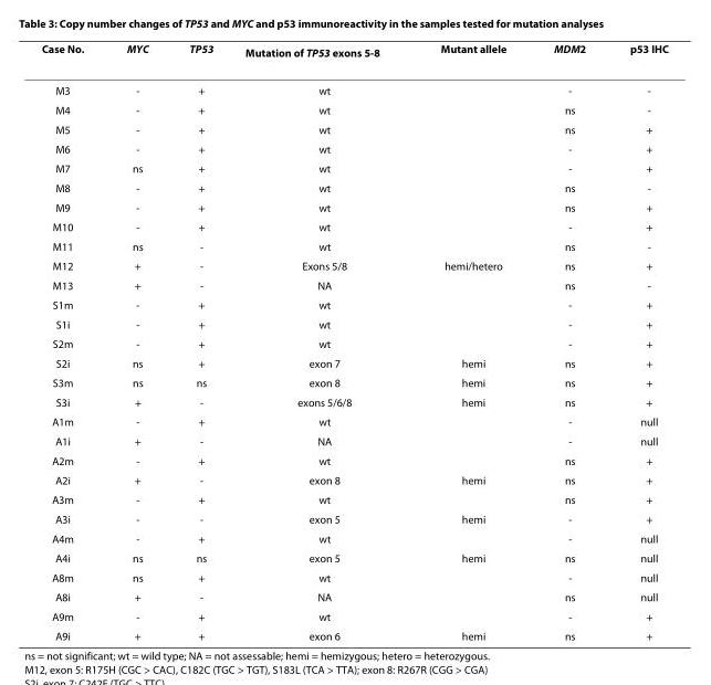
<table><thead><tr><td>Case No.</td><td>MYC</td><td>TP53</td><td>Mutation of TP53 exons 5-8</td><td>Mutant allele</td><td>MDM2</td><td>p53 IHC</td></tr></thead><tbody><tr><td>M3</td><td>-</td><td>+</td><td>wt</td><td></td><td>-</td><td>-</td></tr><tr><td>M4</td><td>-</td><td>+</td><td>wt</td><td></td><td>ns</td><td>-</td></tr><tr><td>M5</td><td>-</td><td>+</td><td>wt</td><td></td><td>ns</td><td>+</td></tr><tr><td>M6</td><td>-</td><td>+</td><td>wt</td><td></td><td>-</td><td>+</td></tr><tr><td>M7</td><td>ns</td><td>+</td><td>wt</td><td></td><td>-</td><td>+</td></tr><tr><td>M8</td><td>-</td><td>+</td><td>wt</td><td></td><td>ns</td><td>-</td></tr><tr><td>M9</td><td>-</td><td>+</td><td>wt</td><td></td><td>ns</td><td>+</td></tr><tr><td>M10</td><td>-</td><td>+</td><td>wt</td><td></td><td>-</td><td>+</td></tr><tr><td>M11</td><td>ns</td><td>-</td><td>wt</td><td></td><td>ns</td><td>-</td></tr><tr><td>M12</td><td>+</td><td>-</td><td>Exons 5/8</td><td>hemi/hetero</td><td>ns</td><td>+</td></tr><tr><td>M13</td><td>+</td><td>-</td><td>NA</td><td></td><td>ns</td><td>-</td></tr><tr><td>S1m</td><td>-</td><td>+</td><td>wt</td><td></td><td>-</td><td>+</td></tr><tr><td>S1i</td><td>-</td><td>+</td><td>wt</td><td></td><td>-</td><td>+</td></tr><tr><td>S2m</td><td>-</td><td>+</td><td>wt</td><td></td><td>-</td><td>+</td></tr><tr><td>S2i</td><td>ns</td><td>+</td><td>exon 7</td><td>hemi</td><td>ns</td><td>+</td></tr><tr><td>S3m</td><td>ns</td><td>ns</td><td>exon 8</td><td>hemi</td><td>ns</td><td>+</td></tr><tr><td>S3i</td><td>+</td><td>-</td><td>exons 5/6/8</td><td>hemi</td><td>ns</td><td>+</td></tr><tr><td>A1m</td><td>-</td><td>+</td><td>wt</td><td></td><td>-</td><td>null</td></tr><tr><td>A1i</td><td>+</td><td>-</td><td>NA</td><td></td><td>-</td><td>null</td></tr><tr><td>A2m</td><td>-</td><td>+</td><td>wt</td><td></td><td>ns</td><td>+</td></tr><tr><td>A2i</td><td>+</td><td>-</td><td>exon 8</td><td>hemi</td><td>ns</td><td>+</td></tr><tr><td>A3m</td><td>-</td><td>+</td><td>wt</td><td></td><td>ns</td><td>+</td></tr><tr><td>A3i</td><td>-</td><td>-</td><td>exon 5</td><td>hemi</td><td>-</td><td>+</td></tr><tr><td>A4m</td><td>-</td><td>+</td><td>wt</td><td></td><td>-</td><td>null</td></tr><tr><td>A4i</td><td>ns</td><td>ns</td><td>exon 5</td><td>hemi</td><td>ns</td><td>null</td></tr><tr><td>A8m</td><td>ns</td><td>+</td><td>wt</td><td></td><td>-</td><td>null</td></tr><tr><td>A8i</td><td>+</td><td>-</td><td>NA</td><td></td><td>ns</td><td>null</td></tr><tr><td>A9m</td><td>-</td><td>+</td><td>wt</td><td></td><td>-</td><td>+</td></tr><tr><td>A9i</td><td>+</td><td>+</td><td>exon 6</td><td>hemi</td><td>ns</td><td>+</td></tr></tbody></table>